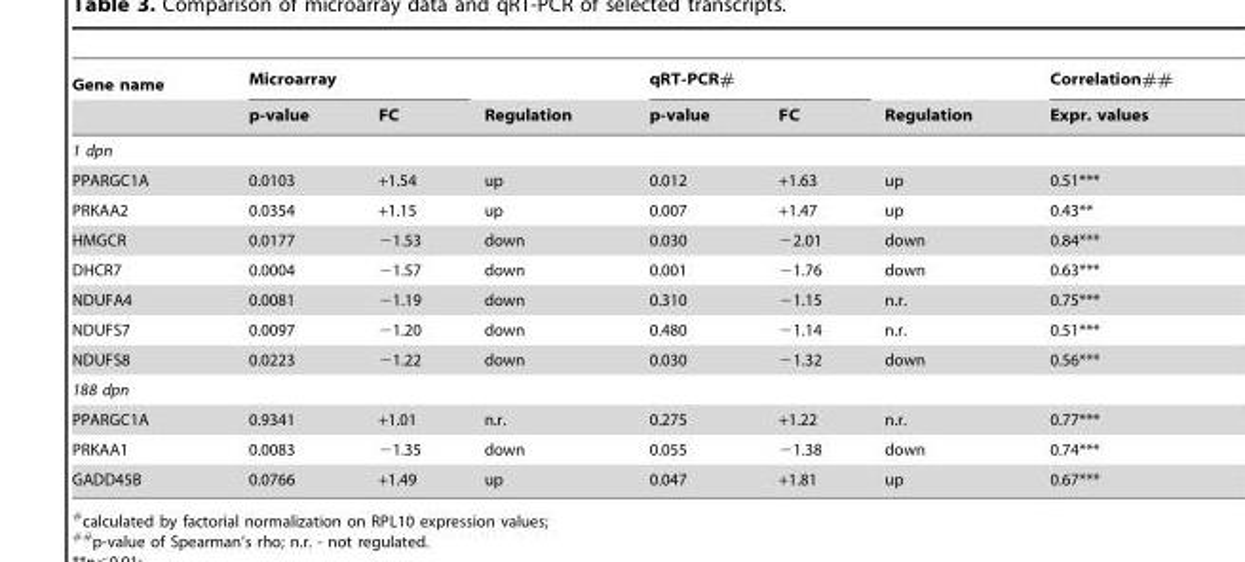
<table><thead><tr><td rowspan="2">Gene name</td><td colspan="2">Microarray</td><td rowspan="2">Regulation</td><td colspan="2">qRT-PCR#</td><td rowspan="2">Regulation</td><td rowspan="2">Correlation## Expr. values</td></tr><tr><td>p-value</td><td>FC</td><td>p-value</td><td>FC</td></tr></thead><tbody><tr><td colspan="8">1 dpn</td></tr><tr><td>PPARGC1A</td><td>0.0103</td><td>+1.54</td><td>up</td><td>0.012</td><td>+1.63</td><td>up</td><td>0.51***</td></tr><tr><td>PRKAA2</td><td>0.0354</td><td>+1.15</td><td>up</td><td>0.007</td><td>+1.47</td><td>up</td><td>0.43**</td></tr><tr><td>HMGCR</td><td>0.0177</td><td>−1.53</td><td>down</td><td>0.030</td><td>−2.01</td><td>down</td><td>0.84***</td></tr><tr><td>DHCR7</td><td>0.0004</td><td>−1.57</td><td>down</td><td>0.001</td><td>−1.76</td><td>down</td><td>0.63***</td></tr><tr><td>NDUFA4</td><td>0.0081</td><td>−1.19</td><td>down</td><td>0.310</td><td>−1.15</td><td>n.r.</td><td>0.75***</td></tr><tr><td>NDUFS7</td><td>0.0097</td><td>−1.20</td><td>down</td><td>0.480</td><td>−1.14</td><td>n.r.</td><td>0.51***</td></tr><tr><td>NDUFS8</td><td>0.0223</td><td>−1.22</td><td>down</td><td>0.030</td><td>−1.32</td><td>down</td><td>0.56***</td></tr><tr><td colspan="8">188 dpn</td></tr><tr><td>PPARGC1A</td><td>0.9341</td><td>+1.01</td><td>n.r.</td><td>0.275</td><td>+1.22</td><td>n.r.</td><td>0.77***</td></tr><tr><td>PRKAA1</td><td>0.0083</td><td>−1.35</td><td>down</td><td>0.055</td><td>−1.38</td><td>down</td><td>0.74***</td></tr><tr><td>GADD45B</td><td>0.0766</td><td>+1.49</td><td>up</td><td>0.047</td><td>+1.81</td><td>up</td><td>0.67***</td></tr></tbody></table>